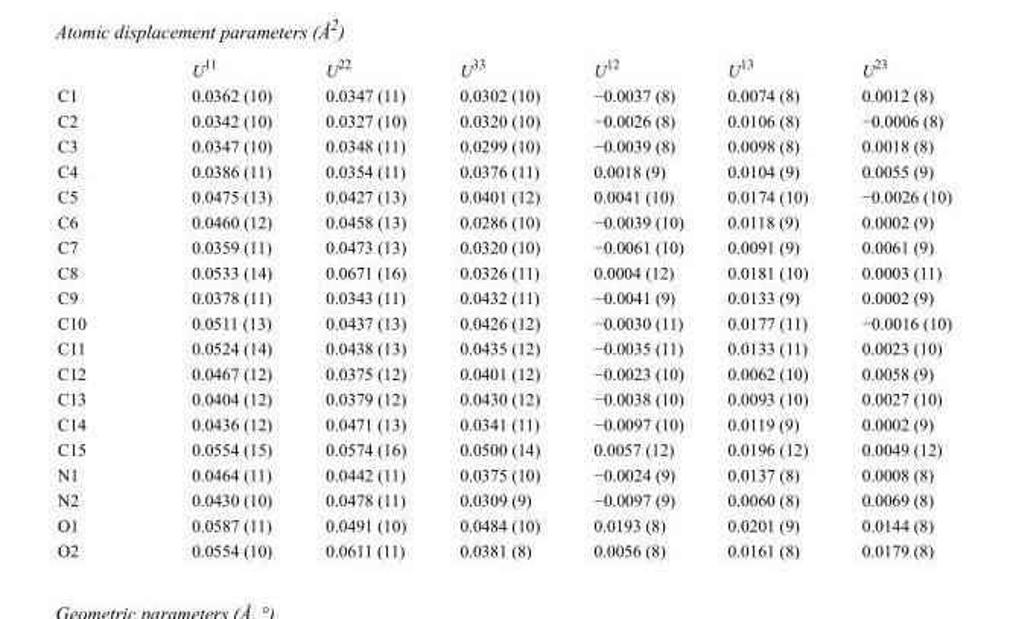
<table><thead><tr><td></td><td>U<sup>11</sup></td><td>U<sup>22</sup></td><td>U<sup>33</sup></td><td>U<sup>12</sup></td><td>U<sup>13</sup></td><td>U<sup>23</sup></td></tr></thead><tbody><tr><td>C1</td><td>0.0362 (10)</td><td>0.0347 (11)</td><td>0.0302 (10)</td><td>−0.0037 (8)</td><td>0.0074 (8)</td><td>0.0012 (8)</td></tr><tr><td>C2</td><td>0.0342 (10)</td><td>0.0327 (10)</td><td>0.0320 (10)</td><td>−0.0026 (8)</td><td>0.0106 (8)</td><td>−0.0006 (8)</td></tr><tr><td>C3</td><td>0.0347 (10)</td><td>0.0348 (11)</td><td>0.0299 (10)</td><td>−0.0039 (8)</td><td>0.0098 (8)</td><td>0.0018 (8)</td></tr><tr><td>C4</td><td>0.0386 (11)</td><td>0.0354 (11)</td><td>0.0376 (11)</td><td>0.0018 (9)</td><td>0.0104 (9)</td><td>0.0055 (9)</td></tr><tr><td>C5</td><td>0.0475 (13)</td><td>0.0427 (13)</td><td>0.0401 (12)</td><td>0.0041 (10)</td><td>0.0174 (10)</td><td>−0.0026 (10)</td></tr><tr><td>C6</td><td>0.0460 (12)</td><td>0.0458 (13)</td><td>0.0286 (10)</td><td>−0.0039 (10)</td><td>0.0118 (9)</td><td>0.0002 (9)</td></tr><tr><td>C7</td><td>0.0359 (11)</td><td>0.0473 (13)</td><td>0.0320 (10)</td><td>−0.0061 (10)</td><td>0.0091 (9)</td><td>0.0061 (9)</td></tr><tr><td>C8</td><td>0.0533 (14)</td><td>0.0671 (16)</td><td>0.0326 (11)</td><td>0.0004 (12)</td><td>0.0181 (10)</td><td>0.0003 (11)</td></tr><tr><td>C9</td><td>0.0378 (11)</td><td>0.0343 (11)</td><td>0.0432 (11)</td><td>−0.0041 (9)</td><td>0.0133 (9)</td><td>0.0002 (9)</td></tr><tr><td>C10</td><td>0.0511 (13)</td><td>0.0437 (13)</td><td>0.0426 (12)</td><td>−0.0030 (11)</td><td>0.0177 (11)</td><td>−0.0016 (10)</td></tr><tr><td>C11</td><td>0.0524 (14)</td><td>0.0438 (13)</td><td>0.0435 (12)</td><td>−0.0035 (11)</td><td>0.0133 (11)</td><td>0.0023 (10)</td></tr><tr><td>C12</td><td>0.0467 (12)</td><td>0.0375 (12)</td><td>0.0401 (12)</td><td>−0.0023 (10)</td><td>0.0062 (10)</td><td>0.0058 (9)</td></tr><tr><td>C13</td><td>0.0404 (12)</td><td>0.0379 (12)</td><td>0.0430 (12)</td><td>−0.0038 (10)</td><td>0.0093 (10)</td><td>0.0027 (10)</td></tr><tr><td>C14</td><td>0.0436 (12)</td><td>0.0471 (13)</td><td>0.0341 (11)</td><td>−0.0097 (10)</td><td>0.0119 (9)</td><td>0.0002 (9)</td></tr><tr><td>C15</td><td>0.0554 (15)</td><td>0.0574 (16)</td><td>0.0500 (14)</td><td>0.0057 (12)</td><td>0.0196 (12)</td><td>0.0049 (12)</td></tr><tr><td>N1</td><td>0.0464 (11)</td><td>0.0442 (11)</td><td>0.0375 (10)</td><td>−0.0024 (9)</td><td>0.0137 (8)</td><td>0.0008 (8)</td></tr><tr><td>N2</td><td>0.0430 (10)</td><td>0.0478 (11)</td><td>0.0309 (9)</td><td>−0.0097 (9)</td><td>0.0060 (8)</td><td>0.0069 (8)</td></tr><tr><td>O1</td><td>0.0587 (11)</td><td>0.0491 (10)</td><td>0.0484 (10)</td><td>0.0193 (8)</td><td>0.0201 (9)</td><td>0.0144 (8)</td></tr><tr><td>O2</td><td>0.0554 (10)</td><td>0.0611 (11)</td><td>0.0381 (8)</td><td>0.0056 (8)</td><td>0.0161 (8)</td><td>0.0179 (8)</td></tr></tbody></table>